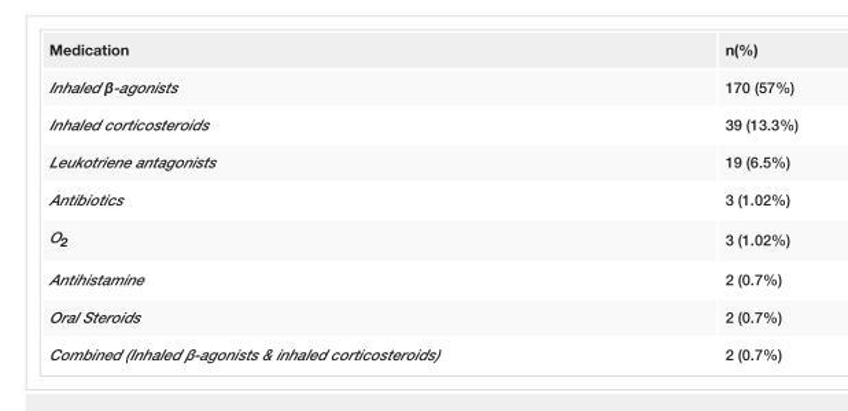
<table><tbody><tr><td>Medication</td><td>n(%)</td></tr><tr><td>Inhaled β-agonists</td><td>170 (57%)</td></tr><tr><td>Inhaled corticosteroids</td><td>39 (13.3%)</td></tr><tr><td>Leukotriene antagonists</td><td>19 (6.5%)</td></tr><tr><td>Antibiotics</td><td>3 (1.02%)</td></tr><tr><td>O<sub>2</sub></td><td>3 (1.02%)</td></tr><tr><td>Antihistamine</td><td>2 (0.7%)</td></tr><tr><td>Oral Steroids</td><td>2 (0.7%)</td></tr><tr><td>Combined (Inhaled β-agonists &amp; inhaled corticosteroids)</td><td>2 (0.7%)</td></tr></tbody></table>